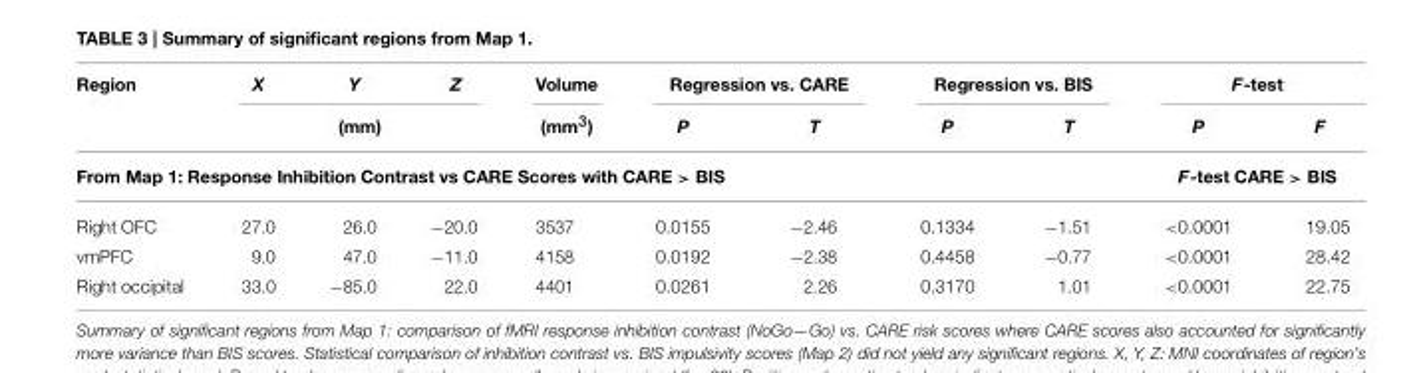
<table><thead><tr><td rowspan="2">Region</td><td>X</td><td>Y</td><td>Z</td><td rowspan="2">Volume (mm<sup>3</sup>)</td><td colspan="2">Regression vs. CARE</td><td colspan="2">Regression vs. BIS</td><td colspan="2">F-test</td></tr><tr><td colspan="3">(mm)</td><td>P</td><td>T</td><td>P</td><td>T</td><td>P</td><td>F</td></tr></thead><tbody><tr><td colspan="9">From Map 1: Response Inhibition Contrast vs CARE Scores with CARE &gt; BIS</td><td colspan="2">F-test CARE &gt; BIS</td></tr><tr><td>Right OFC</td><td>27.0</td><td>26.0</td><td>−20.0</td><td>3537</td><td>0.0155</td><td>−2.46</td><td>0.1334</td><td>−1.51</td><td>&lt;0.0001</td><td>19.05</td></tr><tr><td>vmPFC</td><td>9.0</td><td>47.0</td><td>−11.0</td><td>4158</td><td>0.0192</td><td>−2.38</td><td>0.4458</td><td>−0.77</td><td>&lt;0.0001</td><td>28.42</td></tr><tr><td>Right occipital</td><td>33.0</td><td>−85.0</td><td>22.0</td><td>4401</td><td>0.0261</td><td>2.26</td><td>0.3170</td><td>1.01</td><td>&lt;0.0001</td><td>22.75</td></tr></tbody></table>